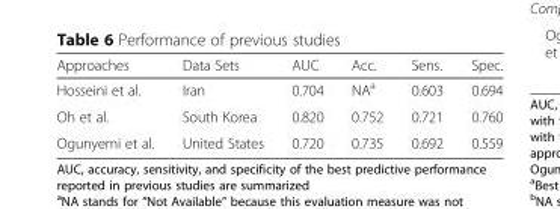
<table><thead><tr><td>Approaches</td><td>Data Sets</td><td>AUC</td><td>Acc.</td><td>Sens.</td><td>Spec.</td></tr></thead><tbody><tr><td>Hosseini et al.</td><td>Iran</td><td>0.704</td><td>NA<sup>a</sup></td><td>0.603</td><td>0.694</td></tr><tr><td>Oh et al.</td><td>South Korea</td><td>0.820</td><td>0.752</td><td>0.721</td><td>0.760</td></tr><tr><td>Ogunyemi et al.</td><td>United States</td><td>0.720</td><td>0.735</td><td>0.692</td><td>0.559</td></tr></tbody></table>